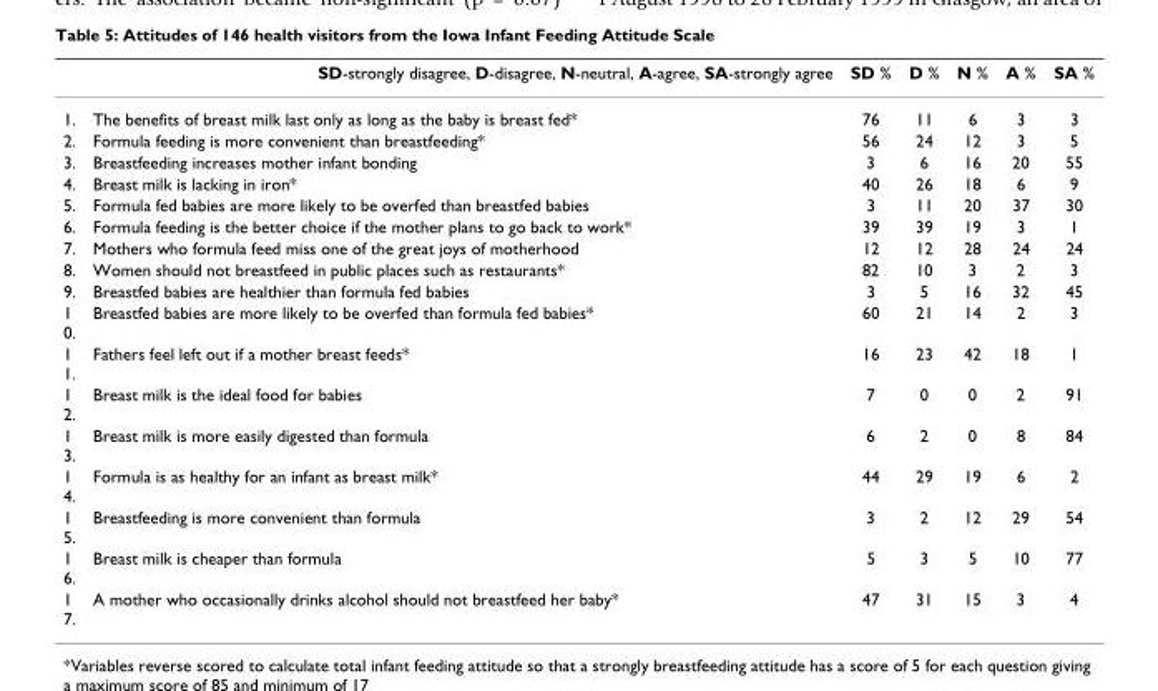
<table><thead><tr><td></td><td>SD-strongly disagree, D-disagree, N-neutral, A-agree, SA-strongly agree</td><td>SD %</td><td>D %</td><td>N %</td><td>A %</td><td>SA %</td></tr></thead><tbody><tr><td>1.</td><td>The benefits of breast milk last only as long as the baby is breast fed*</td><td>76</td><td>11</td><td>6</td><td>3</td><td>3</td></tr><tr><td>2.</td><td>Formula feeding is more convenient than breastfeeding*</td><td>56</td><td>24</td><td>12</td><td>3</td><td>5</td></tr><tr><td>3.</td><td>Breastfeeding increases mother infant bonding</td><td>3</td><td>6</td><td>16</td><td>20</td><td>55</td></tr><tr><td>4.</td><td>Breast milk is lacking in iron*</td><td>40</td><td>26</td><td>18</td><td>6</td><td>9</td></tr><tr><td>5.</td><td>Formula fed babies are more likely to be overfed than breastfed babies</td><td>3</td><td>11</td><td>20</td><td>37</td><td>30</td></tr><tr><td>6.</td><td>Formula feeding is the better choice if the mother plans to go back to work*</td><td>39</td><td>39</td><td>19</td><td>3</td><td>1</td></tr><tr><td>7.</td><td>Mothers who formula feed miss one of the great joys of motherhood</td><td>12</td><td>12</td><td>28</td><td>24</td><td>24</td></tr><tr><td>8.</td><td>Women should not breastfeed in public places such as restaurants*</td><td>82</td><td>10</td><td>3</td><td>2</td><td>3</td></tr><tr><td>9.</td><td>Breastfed babies are healthier than formula fed babies</td><td>3</td><td>5</td><td>16</td><td>32</td><td>45</td></tr><tr><td>1 0.</td><td>Breastfed babies are more likely to be overfed than formula fed babies*</td><td>60</td><td>21</td><td>14</td><td>2</td><td>3</td></tr><tr><td>1 1.</td><td>Fathers feel left out if a mother breast feeds*</td><td>16</td><td>23</td><td>42</td><td>18</td><td>1</td></tr><tr><td>1 2.</td><td>Breast milk is the ideal food for babies</td><td>7</td><td>0</td><td>0</td><td>2</td><td>91</td></tr><tr><td>1 3.</td><td>Breast milk is more easily digested than formula</td><td>6</td><td>2</td><td>0</td><td>8</td><td>84</td></tr><tr><td>1 4.</td><td>Formula is as healthy for an infant as breast milk*</td><td>44</td><td>29</td><td>19</td><td>6</td><td>2</td></tr><tr><td>1 5.</td><td>Breastfeeding is more convenient than formula</td><td>3</td><td>2</td><td>12</td><td>29</td><td>54</td></tr><tr><td>1 6.</td><td>Breast milk is cheaper than formula</td><td>5</td><td>3</td><td>5</td><td>10</td><td>77</td></tr><tr><td>1 7.</td><td>A mother who occasionally drinks alcohol should not breastfeed her baby*</td><td>47</td><td>31</td><td>15</td><td>3</td><td>4</td></tr></tbody></table>